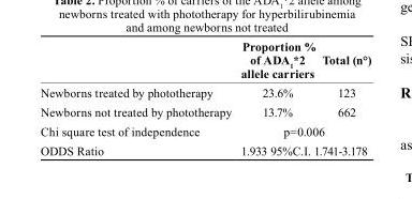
<table><thead><tr><td></td><td>Proportion % of ADA<sub>1</sub>*2 allele carriers</td><td>total (n°)</td></tr></thead><tbody><tr><td>Newborns treated by phototherapy</td><td>23.6%</td><td>123</td></tr><tr><td>Newborns not treated by phototherapy</td><td>13.7%</td><td>662</td></tr><tr><td>Chi square test of independence</td><td colspan="2">p=0.006</td></tr><tr><td>ODDS Ratio</td><td colspan="2">1.933 95%C.I. 1.741-3.178</td></tr></tbody></table>